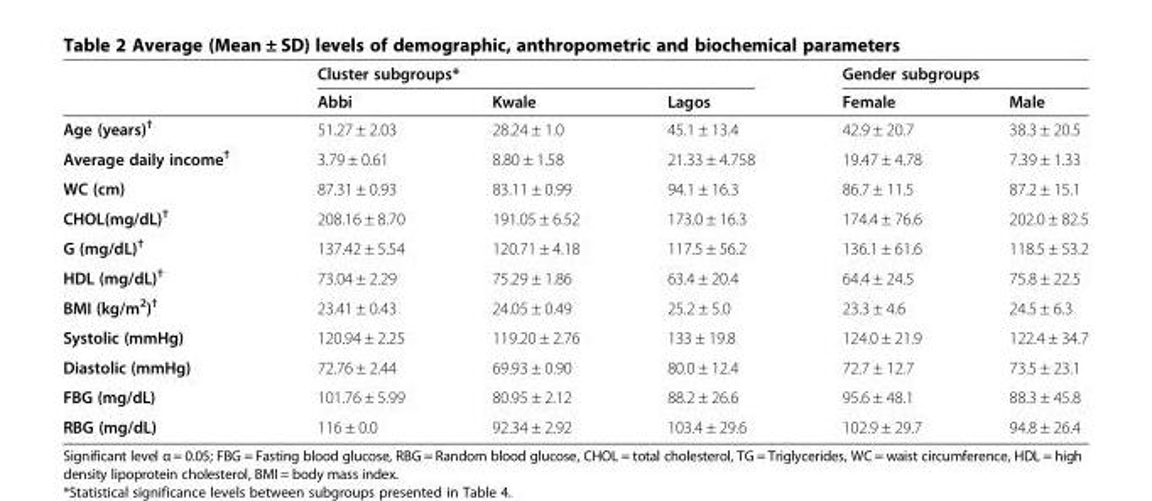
<table><thead><tr><td rowspan="2"></td><td colspan="3">Cluster subgroups*</td><td colspan="2">Gender subgroups</td></tr><tr><td>Abbi</td><td>Kwale</td><td>Lagos</td><td>Female</td><td>Male</td></tr></thead><tbody><tr><td>Age (years)<sup>†</sup></td><td>51.27 ± 2.03</td><td>28.24 ± 1.0</td><td>45.1 ± 13.4</td><td>42.9 ± 20.7</td><td>38.3 ± 20.5</td></tr><tr><td>Average daily income<sup>†</sup></td><td>3.79 ± 0.61</td><td>8.80 ± 1.58</td><td>21.33 ± 4.758</td><td>19.47 ± 4.78</td><td>7.39 ± 1.33</td></tr><tr><td>WC (cm)</td><td>87.31 ± 0.93</td><td>83.11 ± 0.99</td><td>94.1 ± 16.3</td><td>86.7 ± 11.5</td><td>87.2 ± 15.1</td></tr><tr><td>CHOL(mg/dL)<sup>†</sup></td><td>208.16 ± 8.70</td><td>191.05 ± 6.52</td><td>173.0 ± 16.3</td><td>174.4 ± 76.6</td><td>202.0 ± 82.5</td></tr><tr><td>G (mg/dL)<sup>†</sup></td><td>137.42 ± 5.54</td><td>120.71 ± 4.18</td><td>117.5 ± 56.2</td><td>136.1 ± 61.6</td><td>118.5 ± 53.2</td></tr><tr><td>HDL (mg/dL)<sup>†</sup></td><td>73.04 ± 2.29</td><td>75.29 ± 1.86</td><td>63.4 ± 20.4</td><td>64.4 ± 24.5</td><td>75.8 ± 22.5</td></tr><tr><td>BMI (kg/m<sup>2</sup>)<sup>†</sup></td><td>23.41 ± 0.43</td><td>24.05 ± 0.49</td><td>25.2 ± 5.0</td><td>23.3 ± 4.6</td><td>24.5 ± 6.3</td></tr><tr><td>Systolic (mmHg)</td><td>120.94 ± 2.25</td><td>119.20 ± 2.76</td><td>133 ± 19.8</td><td>124.0 ± 21.9</td><td>122.4 ± 34.7</td></tr><tr><td>Diastolic (mmHg)</td><td>72.76 ± 2.44</td><td>69.93 ± 0.90</td><td>80.0 ± 12.4</td><td>72.7 ± 12.7</td><td>73.5 ± 23.1</td></tr><tr><td>FBG (mg/dL)</td><td>101.76 ± 5.99</td><td>80.95 ± 2.12</td><td>88.2 ± 26.6</td><td>95.6 ± 48.1</td><td>88.3 ± 45.8</td></tr><tr><td>RBG (mg/dL)</td><td>116 ± 0.0</td><td>92.34 ± 2.92</td><td>103.4 ± 29.6</td><td>102.9 ± 29.7</td><td>94.8 ± 26.4</td></tr></tbody></table>